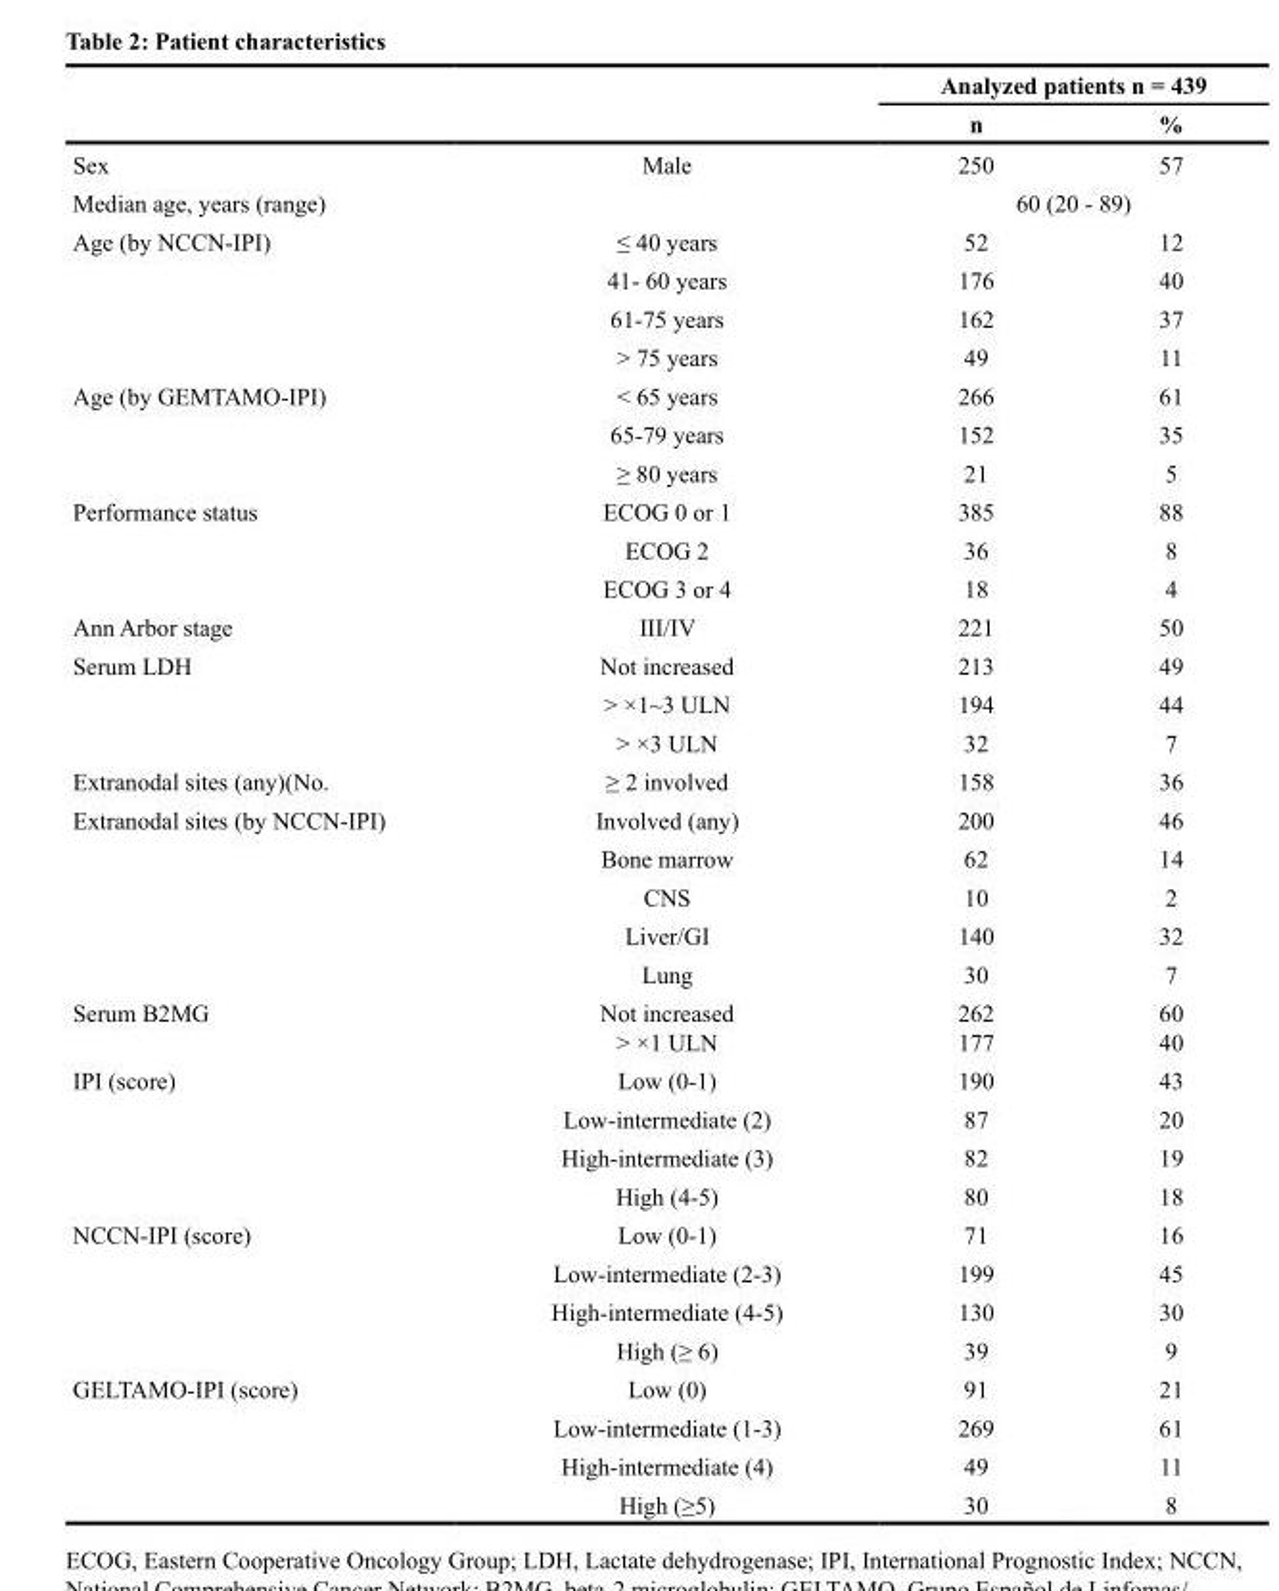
<table><thead><tr><td rowspan="2"></td><td rowspan="2"></td><td colspan="2">Analyzed patients n = 439</td></tr><tr><td>n</td><td>%</td></tr></thead><tbody><tr><td>Sex</td><td>Male</td><td>250</td><td>57</td></tr><tr><td>Median age, years (range)</td><td></td><td colspan="2">60 (20 - 89)</td></tr><tr><td rowspan="4">Age (by NCCN-IPI)</td><td>≤ 40 years</td><td>52</td><td>12</td></tr><tr><td>41- 60 years</td><td>176</td><td>40</td></tr><tr><td>61-75 years</td><td>162</td><td>37</td></tr><tr><td>&gt; 75 years</td><td>49</td><td>11</td></tr><tr><td rowspan="3">Age (by GEMTAMO-IPI)</td><td>&lt; 65 years</td><td>266</td><td>61</td></tr><tr><td>65-79 years</td><td>152</td><td>35</td></tr><tr><td>≥ 80 years</td><td>21</td><td>5</td></tr><tr><td rowspan="3">Performance status</td><td>ECOG 0 or 1</td><td>385</td><td>88</td></tr><tr><td>ECOG 2</td><td>36</td><td>8</td></tr><tr><td>ECOG 3 or 4</td><td>18</td><td>4</td></tr><tr><td>Ann Arbor stage</td><td>III/IV</td><td>221</td><td>50</td></tr><tr><td rowspan="3">Serum LDH</td><td>Not increased</td><td>213</td><td>49</td></tr><tr><td>&gt; ×1~3 ULN</td><td>194</td><td>44</td></tr><tr><td>&gt; ×3 ULN</td><td>32</td><td>7</td></tr><tr><td>Extranodal sites (any)(No.</td><td>≥ 2 involved</td><td>158</td><td>36</td></tr><tr><td rowspan="5">Extranodal sites (by NCCN-IPI)</td><td>Involved (any)</td><td>200</td><td>46</td></tr><tr><td>Bone marrow</td><td>62</td><td>14</td></tr><tr><td>CNS</td><td>10</td><td>2</td></tr><tr><td>Liver/GI</td><td>140</td><td>32</td></tr><tr><td>Lung</td><td>30</td><td>7</td></tr><tr><td rowspan="2">Serum B2MG</td><td>Not increased</td><td>262</td><td>60</td></tr><tr><td>&gt; ×1 ULN</td><td>177</td><td>40</td></tr><tr><td rowspan="4">IPI (score)</td><td>Low (0-1)</td><td>190</td><td>43</td></tr><tr><td>Low-intermediate (2)</td><td>87</td><td>20</td></tr><tr><td>High-intermediate (3)</td><td>82</td><td>19</td></tr><tr><td>High (4-5)</td><td>80</td><td>18</td></tr><tr><td rowspan="4">NCCN-IPI (score)</td><td>Low (0-1)</td><td>71</td><td>16</td></tr><tr><td>Low-intermediate (2-3)</td><td>199</td><td>45</td></tr><tr><td>High-intermediate (4-5)</td><td>130</td><td>30</td></tr><tr><td>High (≥ 6)</td><td>39</td><td>9</td></tr><tr><td rowspan="4">GELTAMO-IPI (score)</td><td>Low (0)</td><td>91</td><td>21</td></tr><tr><td>Low-intermediate (1-3)</td><td>269</td><td>61</td></tr><tr><td>High-intermediate (4)</td><td>49</td><td>11</td></tr><tr><td>High (≥5)</td><td>30</td><td>8</td></tr></tbody></table>